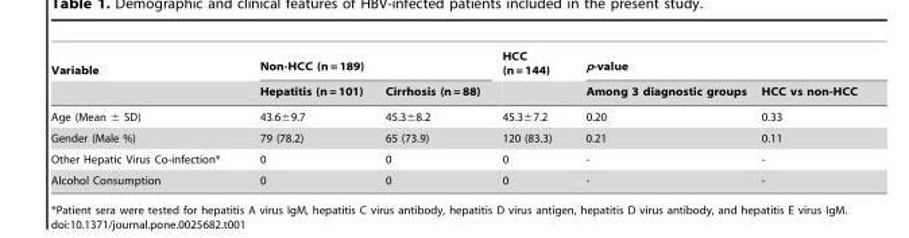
<table><thead><tr><td rowspan="2">Variable</td><td colspan="2">Non-HCC (n = 189)</td><td rowspan="2">HCC (n = 144)</td><td colspan="2">p-value</td></tr><tr><td>Hepatitis (n = 101)</td><td>Cirrhosis (n = 88)</td><td>Among 3 diagnostic groups</td><td>HCC vs non-HCC</td></tr></thead><tbody><tr><td>Age (Mean ± SD)</td><td>43.6±9.7</td><td>45.3±8.2</td><td>45.3±7.2</td><td>0.20</td><td>0.33</td></tr><tr><td>Gender (Male %)</td><td>79 (78.2)</td><td>65 (73.9)</td><td>120 (83.3)</td><td>0.21</td><td>0.11</td></tr><tr><td>Other Hepatic Virus Co-infection*</td><td>0</td><td>0</td><td>0</td><td>-</td><td>-</td></tr><tr><td>Alcohol Consumption</td><td>0</td><td>0</td><td>0</td><td>-</td><td>-</td></tr></tbody></table>